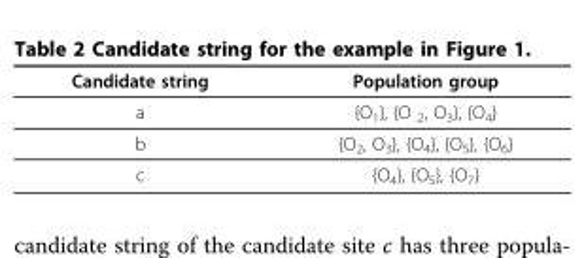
<table><thead><tr><td>Candidate string</td><td>Population group</td></tr></thead><tbody><tr><td>a</td><td>{O<sub>1</sub>}, {O <sub>2</sub>, O<sub>3</sub>}, {O<sub>4</sub>}</td></tr><tr><td>b</td><td>{O<sub>2</sub>, O<sub>3</sub>}, {O<sub>4</sub>}, {O<sub>5</sub>}, {O<sub>6</sub>}</td></tr><tr><td>c</td><td>{O<sub>4</sub>}, {O<sub>5</sub>}, {O<sub>7</sub>}</td></tr></tbody></table>